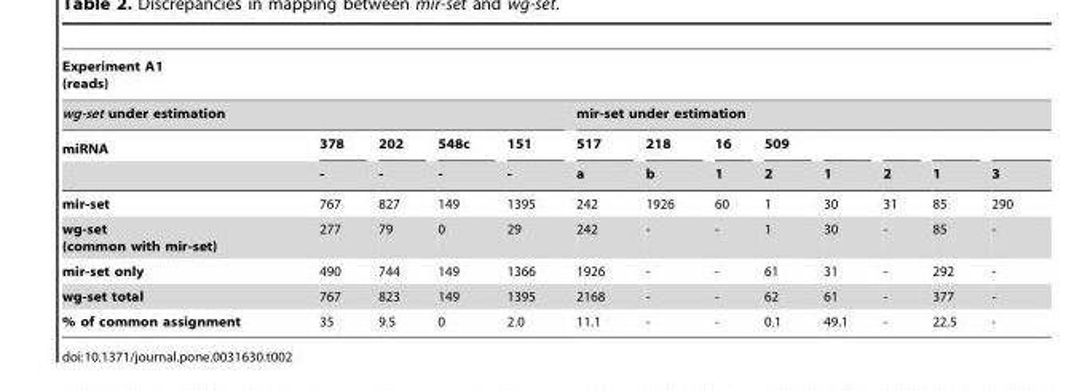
<table><thead><tr><td colspan="13">Experiment A1 (reads)</td></tr><tr><td colspan="5">wg-set under estimation</td><td colspan="8">mir-set under estimation</td></tr><tr><td rowspan="2">miRNA</td><td rowspan="2">378 -</td><td rowspan="2">202 -</td><td rowspan="2">548c -</td><td rowspan="2">151 -</td><td rowspan="2">517 a</td><td rowspan="2">218 b</td><td rowspan="2">16 1</td><td rowspan="2">509 2</td><td rowspan="2">1</td><td rowspan="2">2</td><td rowspan="2">1</td><td rowspan="2">3</td></tr><tr></tr></thead><tbody><tr><td>mir-set</td><td>767</td><td>827</td><td>149</td><td>1395</td><td>242</td><td>1926</td><td>60</td><td>1</td><td>30</td><td>31</td><td>85</td><td>290</td></tr><tr><td>wg-set (common with mir-set)</td><td>277</td><td>79</td><td>0</td><td>29</td><td>242</td><td>-</td><td>-</td><td>1</td><td>30</td><td>-</td><td>85</td><td>-</td></tr><tr><td>mir-set only</td><td>490</td><td>744</td><td>149</td><td>1366</td><td>1926</td><td>-</td><td>-</td><td>61</td><td>31</td><td>-</td><td>292</td><td>-</td></tr><tr><td>wg-set total</td><td>767</td><td>823</td><td>149</td><td>1395</td><td>2168</td><td>-</td><td>-</td><td>62</td><td>61</td><td>-</td><td>377</td><td>-</td></tr><tr><td>% of common assignment</td><td>35</td><td>9.5</td><td>0</td><td>2.0</td><td>11.1</td><td>-</td><td>-</td><td>0.1</td><td>49.1</td><td>-</td><td>22.5</td><td>-</td></tr></tbody></table>